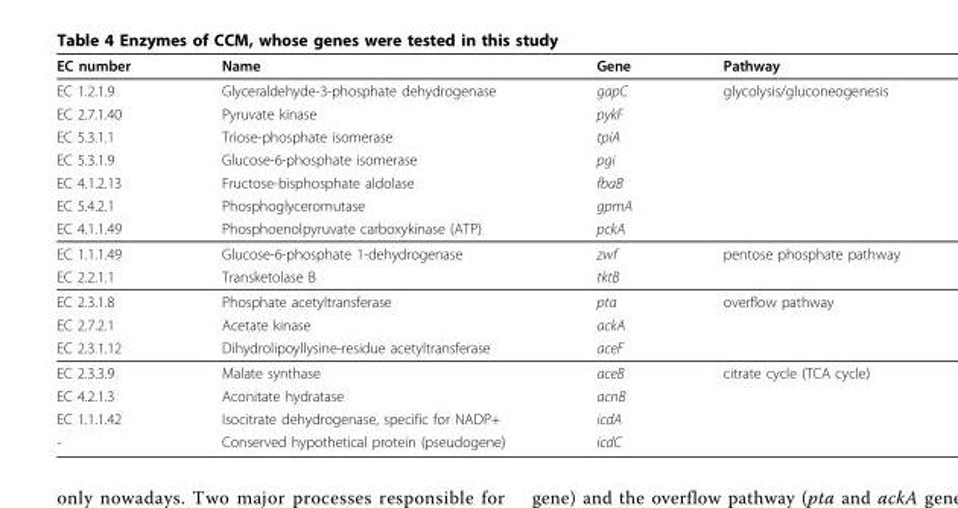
<table><thead><tr><td>EC number</td><td>Name</td><td>Gene</td><td>Pathway</td></tr></thead><tbody><tr><td>EC 1.2.1.9</td><td>Glyceraldehyde-3-phosphate dehydrogenase</td><td>gapC</td><td>glycolysis/gluconeogenesis</td></tr><tr><td>EC 2.7.1.40</td><td>Pyruvate kinase</td><td>pykF</td><td></td></tr><tr><td>EC 5.3.1.1</td><td>Triose-phosphate isomerase</td><td>tpiA</td><td></td></tr><tr><td>EC 5.3.1.9</td><td>Glucose-6-phosphate isomerase</td><td>pgi</td><td></td></tr><tr><td>EC 4.1.2.13</td><td>Fructose-bisphosphate aldolase</td><td>fbaB</td><td></td></tr><tr><td>EC 5.4.2.1</td><td>Phosphoglyceromutase</td><td>gpmA</td><td></td></tr><tr><td>EC 4.1.1.49</td><td>Phosphoenolpyruvate carboxykinase (ATP)</td><td>pckA</td><td></td></tr><tr><td>EC 1.1.1.49</td><td>Glucose-6-phosphate 1-dehydrogenase</td><td>zwf</td><td>pentose phosphate pathway</td></tr><tr><td>EC 2.2.1.1</td><td>Transketolase B</td><td>tktB</td><td></td></tr><tr><td>EC 2.3.1.8</td><td>Phosphate acetyltransferase</td><td>pta</td><td>overflow pathway</td></tr><tr><td>EC 2.7.2.1</td><td>Acetate kinase</td><td>ackA</td><td></td></tr><tr><td>EC 2.3.1.12</td><td>Dihydrolipoyllysine-residue acetyltransferase</td><td>aceF</td><td></td></tr><tr><td>EC 2.3.3.9</td><td>Malate synthase</td><td>aceB</td><td>citrate cycle (TCA cycle)</td></tr><tr><td>EC 4.2.1.3</td><td>Aconitate hydratase</td><td>acnB</td><td></td></tr><tr><td>EC 1.1.1.42</td><td>Isocitrate dehydrogenase, specific for NADP+</td><td>icdA</td><td></td></tr><tr><td>-</td><td>Conserved hypothetical protein (pseudogene)</td><td>icdC</td><td></td></tr></tbody></table>